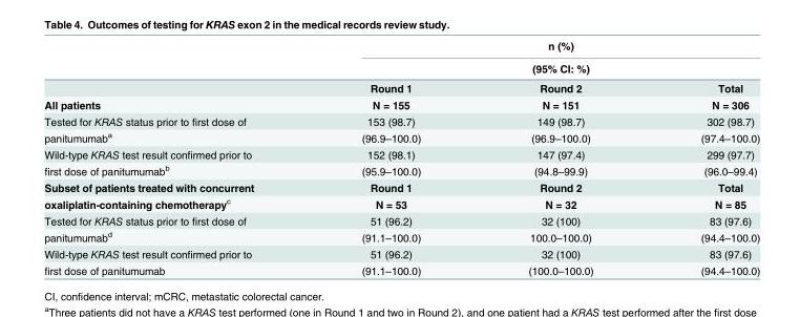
<table><thead><tr><td rowspan="3"></td><td rowspan="2" colspan="3">n (%) (95% CI: %)</td></tr><tr></tr><tr><td>Round 1</td><td>Round 2</td><td>Total</td></tr></thead><tbody><tr><td>All patients</td><td>N = 155</td><td>N = 151</td><td>N = 306</td></tr><tr><td>Tested for KRAS status prior to first dose of</td><td>153 (98.7)</td><td>149 (98.7)</td><td>302 (98.7)</td></tr><tr><td>panitumumab<sup>a</sup></td><td>(96.9–100.0)</td><td>(96.9–100.0)</td><td>(97.4–100.0)</td></tr><tr><td>Wild-type KRAS test result confirmed prior to</td><td>152 (98.1)</td><td>147 (97.4)</td><td>299 (97.7)</td></tr><tr><td>first dose of panitumumab<sup>b</sup></td><td>(95.9–100.0)</td><td>(94.8–99.9)</td><td>(96.0–99.4)</td></tr><tr><td>Subset of patients treated with concurrent</td><td>Round 1</td><td>Round 2</td><td>Total</td></tr><tr><td>oxaliplatin-containing chemotherapy<sup>c</sup></td><td>N = 53</td><td>N = 32</td><td>N = 85</td></tr><tr><td>Tested for KRAS status prior to first dose of</td><td>51 (96.2)</td><td>32 (100)</td><td>83 (97.6)</td></tr><tr><td>panitumumab<sup>d</sup></td><td>(91.1–100.0)</td><td>100.0–100.0)</td><td>(94.4–100.0)</td></tr><tr><td>Wild-type KRAS test result confirmed prior to</td><td>51 (96.2)</td><td>32 (100)</td><td>83 (97.6)</td></tr><tr><td>first dose of panitumumab</td><td>(91.1–100.0)</td><td>(100.0–100.0)</td><td>(94.4–100.0)</td></tr></tbody></table>